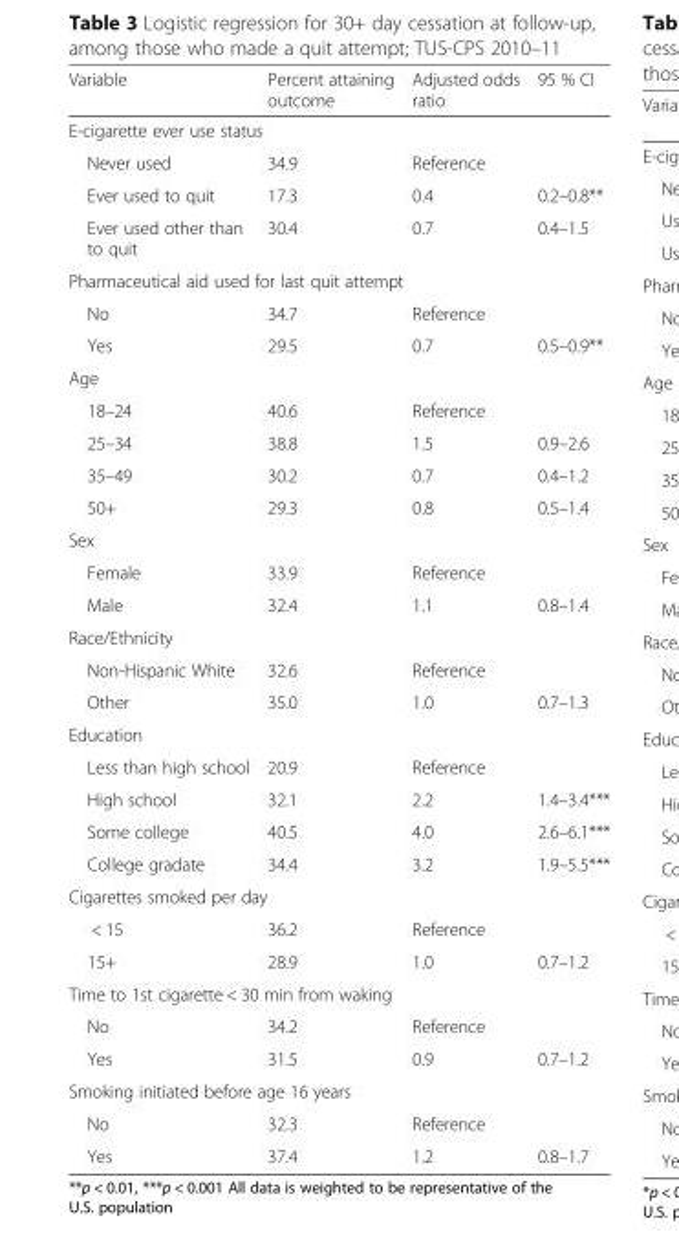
<table><thead><tr><td>Variable</td><td>Percent attaining outcome</td><td>Adjusted odds ratio</td><td>95 % CI</td></tr></thead><tbody><tr><td colspan="4">E-cigarette ever use status</td></tr><tr><td>Never used</td><td>34.9</td><td>Reference</td><td></td></tr><tr><td>Ever used to quit</td><td>17.3</td><td>0.4</td><td>0.2–0.8**</td></tr><tr><td>Ever used other than to quit</td><td>30.4</td><td>0.7</td><td>0.4–1.5</td></tr><tr><td colspan="4">Pharmaceutical aid used for last quit attempt</td></tr><tr><td>No</td><td>34.7</td><td>Reference</td><td></td></tr><tr><td>Yes</td><td>29.5</td><td>0.7</td><td>0.5–0.9**</td></tr><tr><td colspan="4">Age</td></tr><tr><td>18–24</td><td>40.6</td><td>Reference</td><td></td></tr><tr><td>25–34</td><td>38.8</td><td>1.5</td><td>0.9–2.6</td></tr><tr><td>35–49</td><td>30.2</td><td>0.7</td><td>0.4–1.2</td></tr><tr><td>50+</td><td>29.3</td><td>0.8</td><td>0.5–1.4</td></tr><tr><td colspan="4">Sex</td></tr><tr><td>Female</td><td>33.9</td><td>Reference</td><td></td></tr><tr><td>Male</td><td>32.4</td><td>1.1</td><td>0.8–1.4</td></tr><tr><td colspan="4">Race/Ethnicity</td></tr><tr><td>Non-Hispanic White</td><td>32.6</td><td>Reference</td><td></td></tr><tr><td>Other</td><td>35.0</td><td>1.0</td><td>0.7–1.3</td></tr><tr><td colspan="4">Education</td></tr><tr><td>Less than high school</td><td>20.9</td><td>Reference</td><td></td></tr><tr><td>High school</td><td>32.1</td><td>2.2</td><td>1.4–3.4***</td></tr><tr><td>Some college</td><td>40.5</td><td>4.0</td><td>2.6–6.1***</td></tr><tr><td>College gradate</td><td>34.4</td><td>3.2</td><td>1.9–5.5***</td></tr><tr><td colspan="4">Cigarettes smoked per day</td></tr><tr><td>&lt; 15</td><td>36.2</td><td>Reference</td><td></td></tr><tr><td>15+</td><td>28.9</td><td>1.0</td><td>0.7–1.2</td></tr><tr><td colspan="4">Time to 1st cigarette &lt; 30 min from waking</td></tr><tr><td>No</td><td>34.2</td><td>Reference</td><td></td></tr><tr><td>Yes</td><td>31.5</td><td>0.9</td><td>0.7–1.2</td></tr><tr><td colspan="4">Smoking initiated before age 16 years</td></tr><tr><td>No</td><td>32.3</td><td>Reference</td><td></td></tr><tr><td>Yes</td><td>37.4</td><td>1.2</td><td>0.8–1.7</td></tr></tbody></table>